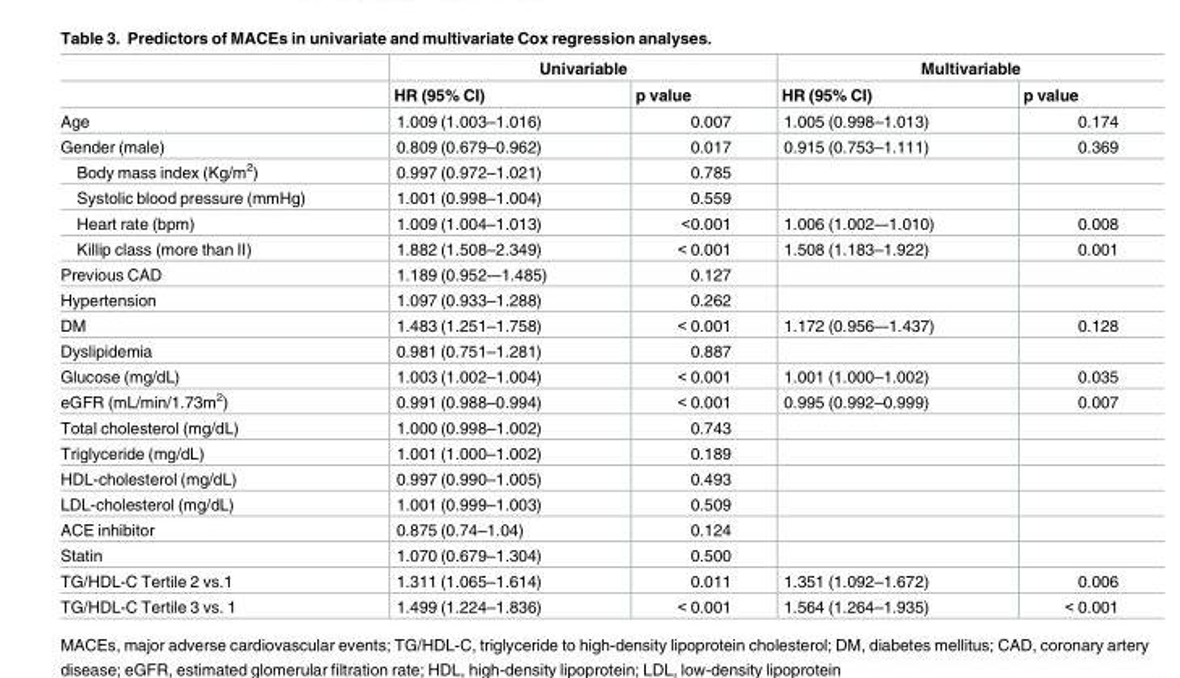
<table><thead><tr><td rowspan="2"></td><td colspan="2">Univariable</td><td colspan="2">Multivariable</td></tr><tr><td>HR (95% CI)</td><td>p value</td><td>HR (95% CI)</td><td>p value</td></tr></thead><tbody><tr><td>Age</td><td>1.009 (1.003–1.016)</td><td>0.007</td><td>1.005 (0.998–1.013)</td><td>0.174</td></tr><tr><td>Gender (male)</td><td>0.809 (0.679–0.962)</td><td>0.017</td><td>0.915 (0.753–1.111)</td><td>0.369</td></tr><tr><td>Body mass index (Kg/m<sup>2</sup>)</td><td>0.997 (0.972–1.021)</td><td>0.785</td><td></td><td></td></tr><tr><td>Systolic blood pressure (mmHg)</td><td>1.001 (0.998–1.004)</td><td>0.559</td><td></td><td></td></tr><tr><td>Heart rate (bpm)</td><td>1.009 (1.004–1.013)</td><td>&lt;0.001</td><td>1.006 (1.002–-1.010)</td><td>0.008</td></tr><tr><td>Killip class (more than II)</td><td>1.882 (1.508–2.349)</td><td>&lt; 0.001</td><td>1.508 (1.183–1.922)</td><td>0.001</td></tr><tr><td>Previous CAD</td><td>1.189 (0.952-–1.485)</td><td>0.127</td><td></td><td></td></tr><tr><td>Hypertension</td><td>1.097 (0.933–1.288)</td><td>0.262</td><td></td><td></td></tr><tr><td>DM</td><td>1.483 (1.251–1.758)</td><td>&lt; 0.001</td><td>1.172 (0.956–-1.437)</td><td>0.128</td></tr><tr><td>Dyslipidemia</td><td>0.981 (0.751–1.281)</td><td>0.887</td><td></td><td></td></tr><tr><td>Glucose (mg/dL)</td><td>1.003 (1.002–1.004)</td><td>&lt; 0.001</td><td>1.001 (1.000–1.002)</td><td>0.035</td></tr><tr><td>eGFR (mL/min/1.73m<sup>2</sup>)</td><td>0.991 (0.988–0.994)</td><td>&lt; 0.001</td><td>0.995 (0.992–0.999)</td><td>0.007</td></tr><tr><td>Total cholesterol (mg/dL)</td><td>1.000 (0.998–1.002)</td><td>0.743</td><td></td><td></td></tr><tr><td>Triglyceride (mg/dL)</td><td>1.001 (1.000–1.002)</td><td>0.189</td><td></td><td></td></tr><tr><td>HDL-cholesterol (mg/dL)</td><td>0.997 (0.990–1.005)</td><td>0.493</td><td></td><td></td></tr><tr><td>LDL-cholesterol (mg/dL)</td><td>1.001 (0.999–1.003)</td><td>0.509</td><td></td><td></td></tr><tr><td>ACE inhibitor</td><td>0.875 (0.74–1.04)</td><td>0.124</td><td></td><td></td></tr><tr><td>Statin</td><td>1.070 (0.679–1.304)</td><td>0.500</td><td></td><td></td></tr><tr><td>TG/HDL-C Tertile 2 vs.1</td><td>1.311 (1.065–1.614)</td><td>0.011</td><td>1.351 (1.092–1.672)</td><td>0.006</td></tr><tr><td>TG/HDL-C Tertile 3 vs. 1</td><td>1.499 (1.224–1.836)</td><td>&lt; 0.001</td><td>1.564 (1.264–1.935)</td><td>&lt; 0.001</td></tr></tbody></table>